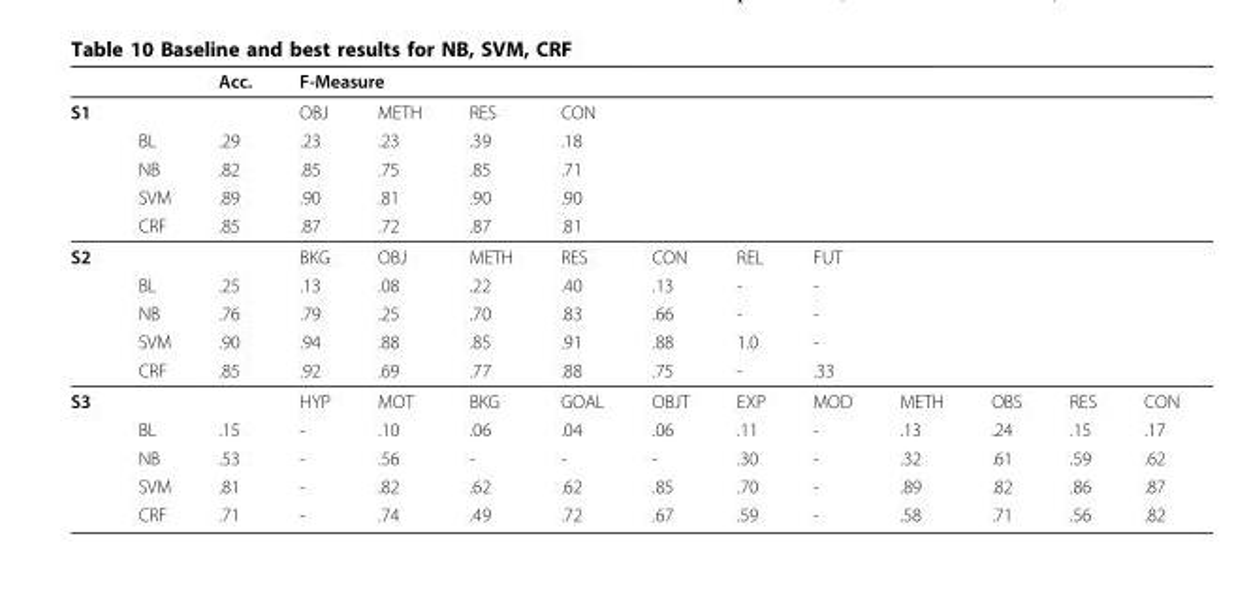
<table><thead><tr><td rowspan="2">S1</td><td rowspan="2"></td><td rowspan="2">Acc.</td><td colspan="11">F-Measure</td></tr><tr><td>OBJ</td><td>METH</td><td>RES</td><td>CON</td><td></td><td></td><td></td><td></td><td></td><td></td><td></td></tr></thead><tbody><tr><td></td><td>BL</td><td>.29</td><td>.23</td><td>.23</td><td>.39</td><td>.18</td><td></td><td></td><td></td><td></td><td></td><td></td><td></td></tr><tr><td></td><td>NB</td><td>.82</td><td>.85</td><td>.75</td><td>.85</td><td>.71</td><td></td><td></td><td></td><td></td><td></td><td></td><td></td></tr><tr><td></td><td>SVM</td><td>.89</td><td>.90</td><td>.81</td><td>.90</td><td>.90</td><td></td><td></td><td></td><td></td><td></td><td></td><td></td></tr><tr><td></td><td>CRF</td><td>.85</td><td>.87</td><td>.72</td><td>.87</td><td>.81</td><td></td><td></td><td></td><td></td><td></td><td></td><td></td></tr><tr><td rowspan="5">S2</td><td></td><td></td><td>BKG</td><td>OBJ</td><td>METH</td><td>RES</td><td>CON</td><td>REL</td><td>FUT</td><td></td><td></td><td></td><td></td></tr><tr><td>BL</td><td>.25</td><td>.13</td><td>.08</td><td>.22</td><td>.40</td><td>.13</td><td>-</td><td>-</td><td></td><td></td><td></td><td></td></tr><tr><td>NB</td><td>.76</td><td>.79</td><td>.25</td><td>.70</td><td>.83</td><td>.66</td><td>-</td><td>-</td><td></td><td></td><td></td><td></td></tr><tr><td>SVM</td><td>.90</td><td>.94</td><td>.88</td><td>.85</td><td>.91</td><td>.88</td><td>1.0</td><td>-</td><td></td><td></td><td></td><td></td></tr><tr><td>CRF</td><td>.85</td><td>.92</td><td>.69</td><td>.77</td><td>.88</td><td>.75</td><td>-</td><td>.33</td><td></td><td></td><td></td><td></td></tr><tr><td rowspan="5">S3</td><td></td><td></td><td>HYP</td><td>MOT</td><td>BKG</td><td>GOAL</td><td>OBJT</td><td>EXP</td><td>MOD</td><td>METH</td><td>OBS</td><td>RES</td><td>CON</td></tr><tr><td>BL</td><td>.15</td><td>-</td><td>.10</td><td>.06</td><td>.04</td><td>.06</td><td>.11</td><td>-</td><td>.13</td><td>.24</td><td>.15</td><td>.17</td></tr><tr><td>NB</td><td>.53</td><td>-</td><td>.56</td><td>-</td><td>-</td><td>-</td><td>.30</td><td>-</td><td>.32</td><td>.61</td><td>.59</td><td>.62</td></tr><tr><td>SVM</td><td>.81</td><td>-</td><td>.82</td><td>.62</td><td>.62</td><td>.85</td><td>.70</td><td>-</td><td>.89</td><td>.82</td><td>.86</td><td>.87</td></tr><tr><td>CRF</td><td>.71</td><td>-</td><td>.74</td><td>.49</td><td>.72</td><td>.67</td><td>.59</td><td>-</td><td>.58</td><td>.71</td><td>.56</td><td>.82</td></tr></tbody></table>